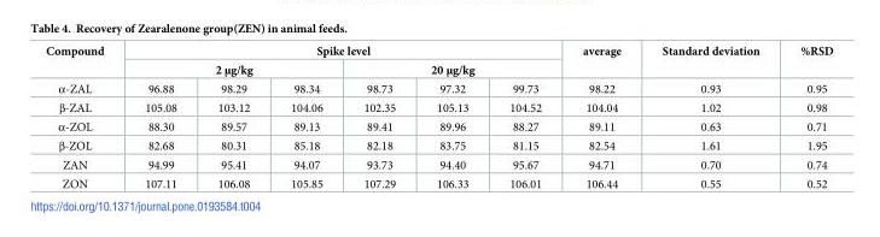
<table><thead><tr><td rowspan="3">Compound α-ZAL</td><td colspan="6">Spike level</td><td rowspan="3">average 98.22</td><td rowspan="3">Standard deviation 0.93</td><td rowspan="3">%RSD 0.95</td></tr><tr><td colspan="3">2 μg/kg</td><td colspan="3">20 μg/kg</td></tr><tr><td>96.88</td><td>98.29</td><td>98.34</td><td>98.73</td><td>97.32</td><td>99.73</td></tr></thead><tbody><tr><td>β-ZAL</td><td>105.08</td><td>103.12</td><td>104.06</td><td>102.35</td><td>105.13</td><td>104.52</td><td>104.04</td><td>1.02</td><td>0.98</td></tr><tr><td>α-ZOL</td><td>88.30</td><td>89.57</td><td>89.13</td><td>89.41</td><td>89.96</td><td>88.27</td><td>89.11</td><td>0.63</td><td>0.71</td></tr><tr><td>β-ZOL</td><td>82.68</td><td>80.31</td><td>85.18</td><td>82.18</td><td>83.75</td><td>81.15</td><td>82.54</td><td>1.61</td><td>1.95</td></tr><tr><td>ZAN</td><td>94.99</td><td>95.41</td><td>94.07</td><td>93.73</td><td>94.40</td><td>95.67</td><td>94.71</td><td>0.70</td><td>0.74</td></tr><tr><td>ZON</td><td>107.11</td><td>106.08</td><td>105.85</td><td>107.29</td><td>106.33</td><td>106.01</td><td>106.44</td><td>0.55</td><td>0.52</td></tr></tbody></table>